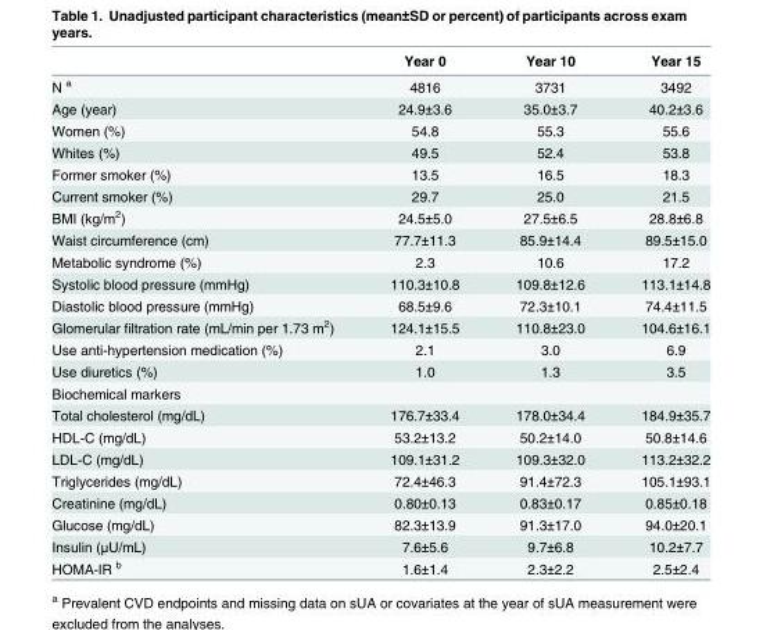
<table><thead><tr><td></td><td>Year 0</td><td>Year 10</td><td>Year 15</td></tr></thead><tbody><tr><td>N <sup>a</sup></td><td>4816</td><td>3731</td><td>3492</td></tr><tr><td>Age (year)</td><td>24.9±3.6</td><td>35.0±3.7</td><td>40.2±3.6</td></tr><tr><td>Women (%)</td><td>54.8</td><td>55.3</td><td>55.6</td></tr><tr><td>Whites (%)</td><td>49.5</td><td>52.4</td><td>53.8</td></tr><tr><td>Former smoker (%)</td><td>13.5</td><td>16.5</td><td>18.3</td></tr><tr><td>Current smoker (%)</td><td>29.7</td><td>25.0</td><td>21.5</td></tr><tr><td>BMI (kg/m<sup>2</sup>)</td><td>24.5±5.0</td><td>27.5±6.5</td><td>28.8±6.8</td></tr><tr><td>Waist circumference (cm)</td><td>77.7±11.3</td><td>85.9±14.4</td><td>89.5±15.0</td></tr><tr><td>Metabolic syndrome (%)</td><td>2.3</td><td>10.6</td><td>17.2</td></tr><tr><td>Systolic blood pressure (mmHg)</td><td>110.3±10.8</td><td>109.8±12.6</td><td>113.1±14.8</td></tr><tr><td>Diastolic blood pressure (mmHg)</td><td>68.5±9.6</td><td>72.3±10.1</td><td>74.4±11.5</td></tr><tr><td>Glomerular filtration rate (mL/min per 1.73 m<sup>2</sup>)</td><td>124.1±15.5</td><td>110.8±23.0</td><td>104.6±16.1</td></tr><tr><td>Use anti-hypertension medication (%)</td><td>2.1</td><td>3.0</td><td>6.9</td></tr><tr><td>Use diuretics (%)</td><td>1.0</td><td>1.3</td><td>3.5</td></tr><tr><td colspan="4">Biochemical markers</td></tr><tr><td>Total cholesterol (mg/dL)</td><td>176.7±33.4</td><td>178.0±34.4</td><td>184.9±35.7</td></tr><tr><td>HDL-C (mg/dL)</td><td>53.2±13.2</td><td>50.2±14.0</td><td>50.8±14.6</td></tr><tr><td>LDL-C (mg/dL)</td><td>109.1±31.2</td><td>109.3±32.0</td><td>113.2±32.2</td></tr><tr><td>Triglycerides (mg/dL)</td><td>72.4±46.3</td><td>91.4±72.3</td><td>105.1±93.1</td></tr><tr><td>Creatinine (mg/dL)</td><td>0.80±0.13</td><td>0.83±0.17</td><td>0.85±0.18</td></tr><tr><td>Glucose (mg/dL)</td><td>82.3±13.9</td><td>91.3±17.0</td><td>94.0±20.1</td></tr><tr><td>Insulin (μU/mL)</td><td>7.6±5.6</td><td>9.7±6.8</td><td>10.2±7.7</td></tr><tr><td>HOMA-IR <sup>b</sup></td><td>1.6±1.4</td><td>2.3±2.2</td><td>2.5±2.4</td></tr></tbody></table>